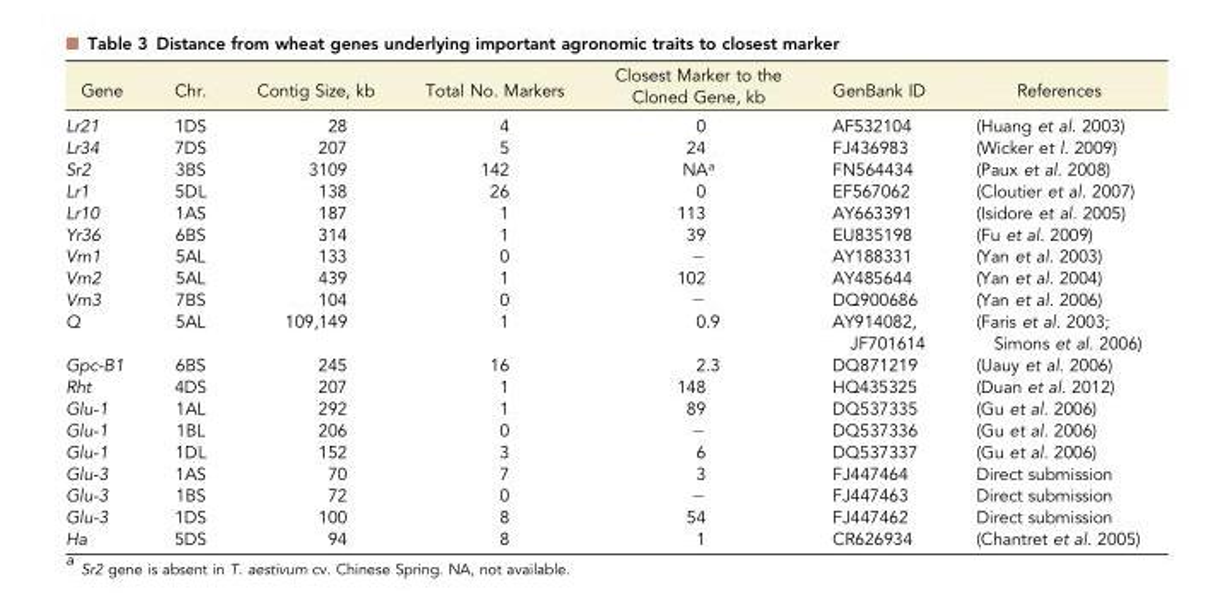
<table><thead><tr><td>Gene</td><td>Chr.</td><td>Contig Size, kb</td><td>Total No. Markers</td><td>Closest Marker to the Cloned Gene, kb</td><td>GenBank ID</td><td>References</td></tr></thead><tbody><tr><td>Lr21</td><td>1DS</td><td>28</td><td>4</td><td>0</td><td>AF532104</td><td>(Huang et al. 2003)</td></tr><tr><td>Lr34</td><td>7DS</td><td>207</td><td>5</td><td>24</td><td>FJ436983</td><td>(Wicker et l. 2009)</td></tr><tr><td>Sr2</td><td>3BS</td><td>3109</td><td>142</td><td>NA<sup>a</sup></td><td>FN564434</td><td>(Paux et al. 2008)</td></tr><tr><td>Lr1</td><td>5DL</td><td>138</td><td>26</td><td>0</td><td>EF567062</td><td>(Cloutier et al. 2007)</td></tr><tr><td>Lr10</td><td>1AS</td><td>187</td><td>1</td><td>113</td><td>AY663391</td><td>(Isidore et al. 2005)</td></tr><tr><td>Yr36</td><td>6BS</td><td>314</td><td>1</td><td>39</td><td>EU835198</td><td>(Fu et al. 2009)</td></tr><tr><td>Vrn1</td><td>5AL</td><td>133</td><td>0</td><td>−</td><td>AY188331</td><td>(Yan et al. 2003)</td></tr><tr><td>Vrn2</td><td>5AL</td><td>439</td><td>1</td><td>102</td><td>AY485644</td><td>(Yan et al. 2004)</td></tr><tr><td>Vrn3</td><td>7BS</td><td>104</td><td>0</td><td>−</td><td>DQ900686</td><td>(Yan et al. 2006)</td></tr><tr><td>Q</td><td>5AL</td><td>109,149</td><td>1</td><td>0.9</td><td>AY914082, JF701614</td><td>(Faris et al. 2003; Simons et al. 2006)</td></tr><tr><td>Gpc-B1</td><td>6BS</td><td>245</td><td>16</td><td>2.3</td><td>DQ871219</td><td>(Uauy et al. 2006)</td></tr><tr><td>Rht</td><td>4DS</td><td>207</td><td>1</td><td>148</td><td>HQ435325</td><td>(Duan et al. 2012)</td></tr><tr><td>Glu-1</td><td>1AL</td><td>292</td><td>1</td><td>89</td><td>DQ537335</td><td>(Gu et al. 2006)</td></tr><tr><td>Glu-1</td><td>1BL</td><td>206</td><td>0</td><td>−</td><td>DQ537336</td><td>(Gu et al. 2006)</td></tr><tr><td>Glu-1</td><td>1DL</td><td>152</td><td>3</td><td>6</td><td>DQ537337</td><td>(Gu et al. 2006)</td></tr><tr><td>Glu-3</td><td>1AS</td><td>70</td><td>7</td><td>3</td><td>FJ447464</td><td>Direct submission</td></tr><tr><td>Glu-3</td><td>1BS</td><td>72</td><td>0</td><td>−</td><td>FJ447463</td><td>Direct submission</td></tr><tr><td>Glu-3</td><td>1DS</td><td>100</td><td>8</td><td>54</td><td>FJ447462</td><td>Direct submission</td></tr><tr><td>Ha</td><td>5DS</td><td>94</td><td>8</td><td>1</td><td>CR626934</td><td>(Chantret et al. 2005)</td></tr></tbody></table>